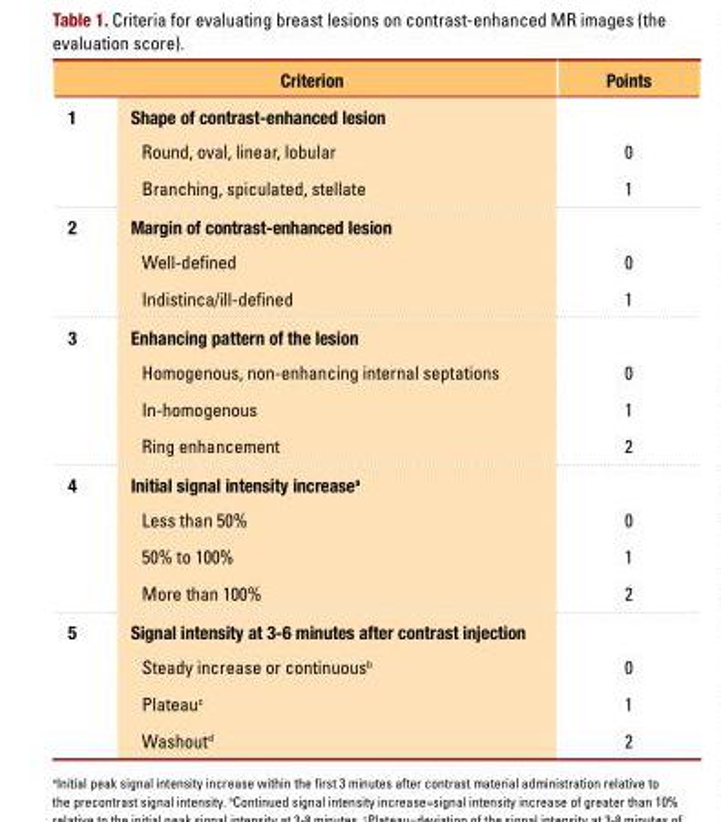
<table><thead><tr><td></td><td>Criterion</td><td>Points</td></tr></thead><tbody><tr><td rowspan="3">1</td><td>Shape of contrast-enhanced lesion</td><td></td></tr><tr><td>round, oval, linear, lobular</td><td>0</td></tr><tr><td>branching, spiculated, stellate</td><td>1</td></tr><tr><td rowspan="3">2</td><td>Margin of contrast-enhanced lesion</td><td></td></tr><tr><td>Well-defined</td><td>0</td></tr><tr><td>indistinca/ill-defined</td><td>1</td></tr><tr><td rowspan="4">3</td><td>Enhancing pattern of the lesion</td><td></td></tr><tr><td>Homogenous, non-enhancing internal septations</td><td>0</td></tr><tr><td>in-homogenous</td><td>1</td></tr><tr><td>ring enhancement</td><td>2</td></tr><tr><td rowspan="4">4</td><td>Initial signal intensity increase<sup>a</sup></td><td></td></tr><tr><td>less than 50%</td><td>0</td></tr><tr><td>50% to 100%</td><td>1</td></tr><tr><td>More than 100%</td><td>2</td></tr><tr><td rowspan="4">5</td><td>Signal intensity at 3-6 minutes after contrast injection</td><td></td></tr><tr><td>Steady increase or continuous<sup>b</sup></td><td>0</td></tr><tr><td>Plateau<sup>c</sup></td><td>1</td></tr><tr><td>Washout<sup>d</sup></td><td>2</td></tr></tbody></table>